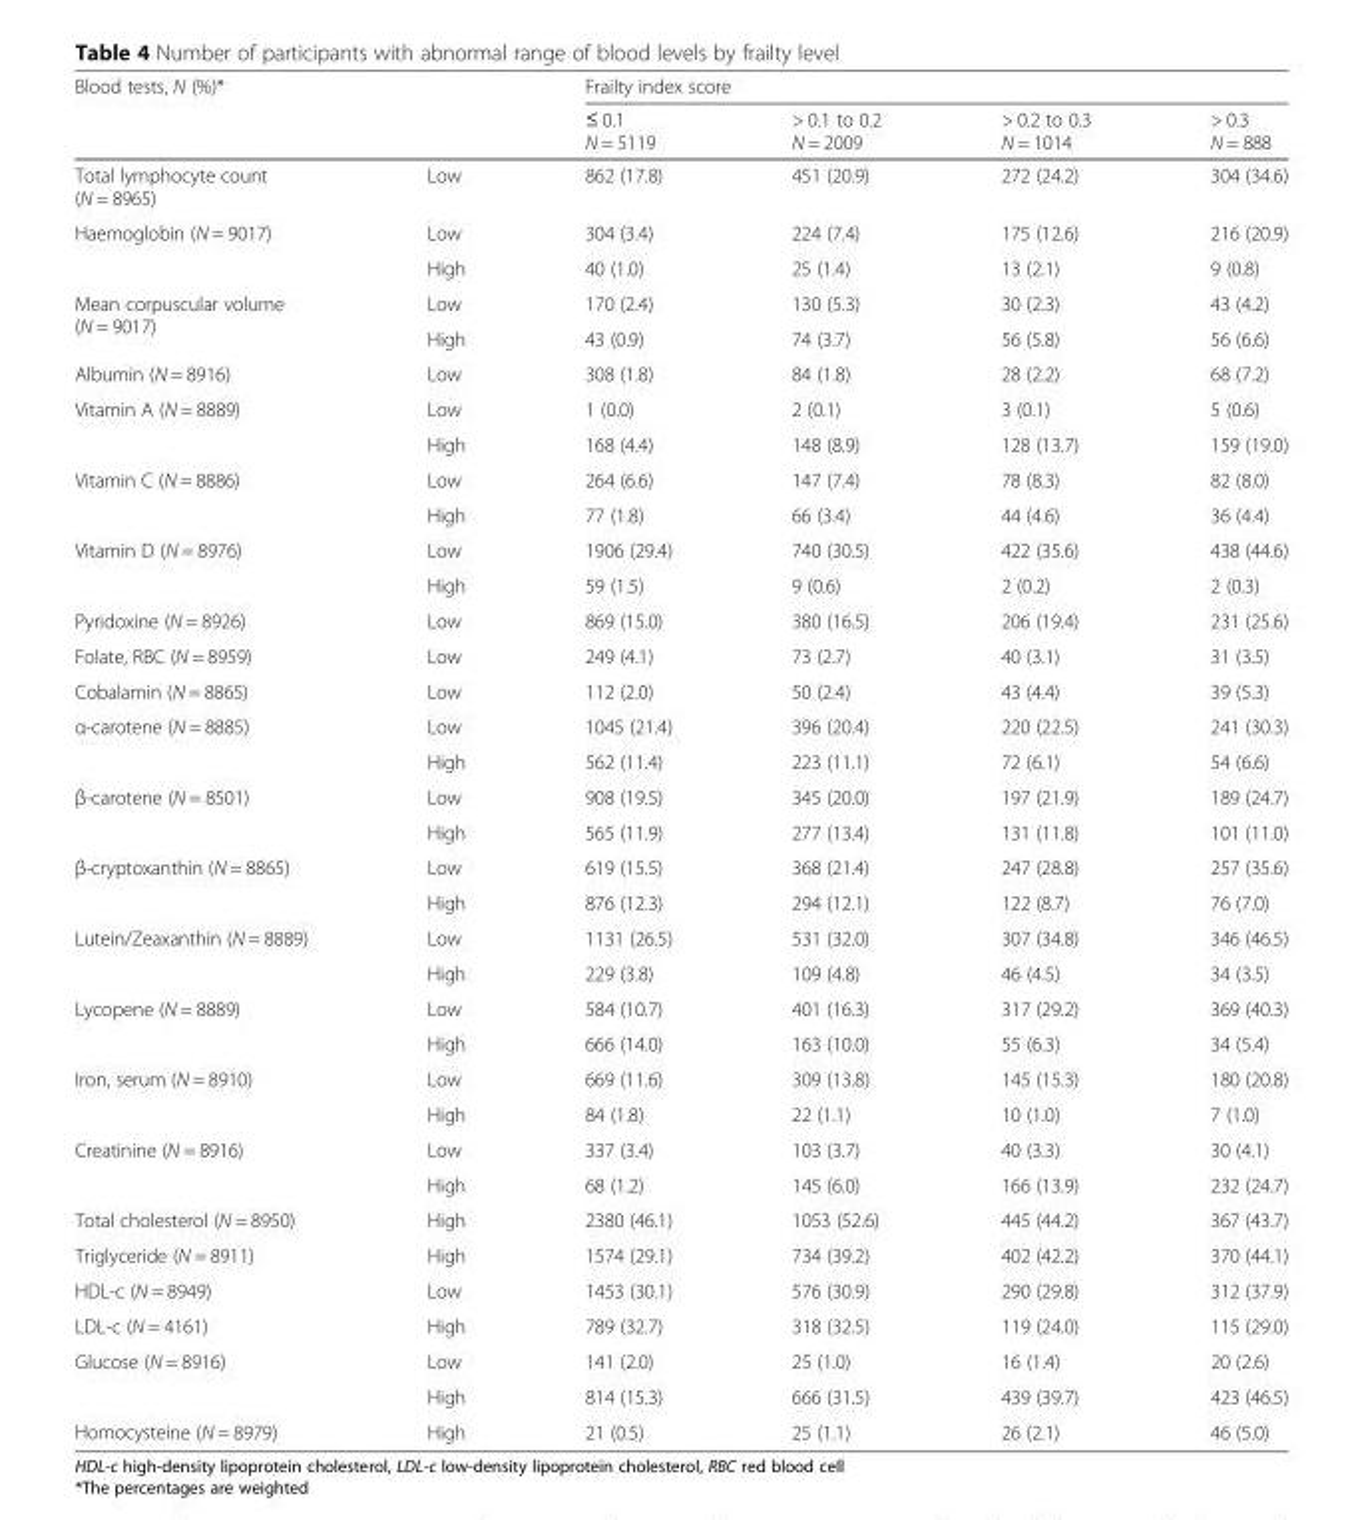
<table><thead><tr><td rowspan="2" colspan="2">Blood tests, N (%)*</td><td colspan="4">Frailty index score</td></tr><tr><td rowspan="2">≤ 0.1 N = 5119 862 (17.8)</td><td rowspan="2">&gt; 0.1 to 0.2 N = 2009 451 (20.9)</td><td rowspan="2">&gt; 0.2 to 0.3 N = 1014 272 (24.2)</td><td rowspan="2">&gt; 0.3 N = 888 304 (34.6)</td></tr><tr><td>Total lymphocyte count (N = 8965)</td><td>Low</td></tr></thead><tbody><tr><td rowspan="2">Haemoglobin (N = 9017)</td><td>Low</td><td>304 (3.4)</td><td>224 (7.4)</td><td>175 (12.6)</td><td>216 (20.9)</td></tr><tr><td>High</td><td>40 (1.0)</td><td>25 (1.4)</td><td>13 (2.1)</td><td>9 (0.8)</td></tr><tr><td rowspan="2">Mean corpuscular volume (N = 9017)</td><td>Low</td><td>170 (2.4)</td><td>130 (5.3)</td><td>30 (2.3)</td><td>43 (4.2)</td></tr><tr><td>High</td><td>43 (0.9)</td><td>74 (3.7)</td><td>56 (5.8)</td><td>56 (6.6)</td></tr><tr><td>Albumin (N = 8916)</td><td>Low</td><td>308 (1.8)</td><td>84 (1.8)</td><td>28 (2.2)</td><td>68 (7.2)</td></tr><tr><td rowspan="2">Vitamin A (N = 8889)</td><td>Low</td><td>1 (0.0)</td><td>2 (0.1)</td><td>3 (0.1)</td><td>5 (0.6)</td></tr><tr><td>High</td><td>168 (4.4)</td><td>148 (8.9)</td><td>128 (13.7)</td><td>159 (19.0)</td></tr><tr><td rowspan="2">Vitamin C (N = 8886)</td><td>Low</td><td>264 (6.6)</td><td>147 (7.4)</td><td>78 (8.3)</td><td>82 (8.0)</td></tr><tr><td>High</td><td>77 (1.8)</td><td>66 (3.4)</td><td>44 (4.6)</td><td>36 (4.4)</td></tr><tr><td rowspan="2">Vitamin D (N = 8976)</td><td>Low</td><td>1906 (29.4)</td><td>740 (30.5)</td><td>422 (35.6)</td><td>438 (44.6)</td></tr><tr><td>High</td><td>59 (1.5)</td><td>9 (0.6)</td><td>2 (0.2)</td><td>2 (0.3)</td></tr><tr><td>Pyridoxine (N = 8926)</td><td>Low</td><td>869 (15.0)</td><td>380 (16.5)</td><td>206 (19.4)</td><td>231 (25.6)</td></tr><tr><td>Folate, RBC (N = 8959)</td><td>Low</td><td>249 (4.1)</td><td>73 (2.7)</td><td>40 (3.1)</td><td>31 (3.5)</td></tr><tr><td>Cobalamin (N = 8865)</td><td>Low</td><td>112 (2.0)</td><td>50 (2.4)</td><td>43 (4.4)</td><td>39 (5.3)</td></tr><tr><td rowspan="2">α-carotene (N = 8885)</td><td>Low</td><td>1045 (21.4)</td><td>396 (20.4)</td><td>220 (22.5)</td><td>241 (30.3)</td></tr><tr><td>High</td><td>562 (11.4)</td><td>223 (11.1)</td><td>72 (6.1)</td><td>54 (6.6)</td></tr><tr><td rowspan="2">β-carotene (N = 8501)</td><td>Low</td><td>908 (19.5)</td><td>345 (20.0)</td><td>197 (21.9)</td><td>189 (24.7)</td></tr><tr><td>High</td><td>565 (11.9)</td><td>277 (13.4)</td><td>131 (11.8)</td><td>101 (11.0)</td></tr><tr><td rowspan="2">β-cryptoxanthin (N = 8865)</td><td>Low</td><td>619 (15.5)</td><td>368 (21.4)</td><td>247 (28.8)</td><td>257 (35.6)</td></tr><tr><td>High</td><td>876 (12.3)</td><td>294 (12.1)</td><td>122 (8.7)</td><td>76 (7.0)</td></tr><tr><td rowspan="2">Lutein/Zeaxanthin (N = 8889)</td><td>Low</td><td>1131 (26.5)</td><td>531 (32.0)</td><td>307 (34.8)</td><td>346 (46.5)</td></tr><tr><td>High</td><td>229 (3.8)</td><td>109 (4.8)</td><td>46 (4.5)</td><td>34 (3.5)</td></tr><tr><td rowspan="2">Lycopene (N = 8889)</td><td>Low</td><td>584 (10.7)</td><td>401 (16.3)</td><td>317 (29.2)</td><td>369 (40.3)</td></tr><tr><td>High</td><td>666 (14.0)</td><td>163 (10.0)</td><td>55 (6.3)</td><td>34 (5.4)</td></tr><tr><td rowspan="2">Iron, serum (N = 8910)</td><td>Low</td><td>669 (11.6)</td><td>309 (13.8)</td><td>145 (15.3)</td><td>180 (20.8)</td></tr><tr><td>High</td><td>84 (1.8)</td><td>22 (1.1)</td><td>10 (1.0)</td><td>7 (1.0)</td></tr><tr><td rowspan="2">Creatinine (N = 8916)</td><td>Low</td><td>337 (3.4)</td><td>103 (3.7)</td><td>40 (3.3)</td><td>30 (4.1)</td></tr><tr><td>High</td><td>68 (1.2)</td><td>145 (6.0)</td><td>166 (13.9)</td><td>232 (24.7)</td></tr><tr><td>Total cholesterol (N = 8950)</td><td>High</td><td>2380 (46.1)</td><td>1053 (52.6)</td><td>445 (44.2)</td><td>367 (43.7)</td></tr><tr><td>Triglyceride (N = 8911)</td><td>High</td><td>1574 (29.1)</td><td>734 (39.2)</td><td>402 (42.2)</td><td>370 (44.1)</td></tr><tr><td>HDL-c (N = 8949)</td><td>Low</td><td>1453 (30.1)</td><td>576 (30.9)</td><td>290 (29.8)</td><td>312 (37.9)</td></tr><tr><td>LDL-c (N = 4161)</td><td>High</td><td>789 (32.7)</td><td>318 (32.5)</td><td>119 (24.0)</td><td>115 (29.0)</td></tr><tr><td rowspan="2">Glucose (N = 8916)</td><td>Low</td><td>141 (2.0)</td><td>25 (1.0)</td><td>16 (1.4)</td><td>20 (2.6)</td></tr><tr><td>High</td><td>814 (15.3)</td><td>666 (31.5)</td><td>439 (39.7)</td><td>423 (46.5)</td></tr><tr><td>Homocysteine (N = 8979)</td><td>High</td><td>21 (0.5)</td><td>25 (1.1)</td><td>26 (2.1)</td><td>46 (5.0)</td></tr></tbody></table>